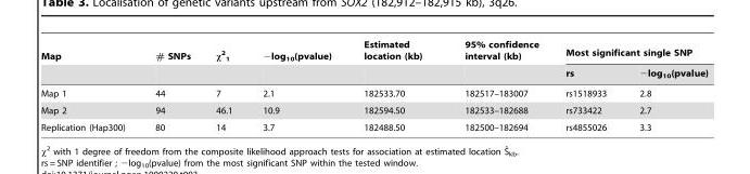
<table><thead><tr><td rowspan="2">Map</td><td rowspan="2"># SNPs</td><td rowspan="2">χ<sup>2</sup> <sub>1</sub></td><td rowspan="2">−log<sub>10</sub>(pvalue)</td><td rowspan="2">Estimated location (kb)</td><td rowspan="2">95% confidence interval (kb)</td><td colspan="2">Most significant single SNP</td></tr><tr><td>rs</td><td>−log<sub>10</sub>(pvalue)</td></tr></thead><tbody><tr><td>Map 1</td><td>44</td><td>7</td><td>2.1</td><td>182533.70</td><td>182517–183007</td><td>rs1518933</td><td>2.8</td></tr><tr><td>Map 2</td><td>94</td><td>46.1</td><td>10.9</td><td>182594.50</td><td>182533–182688</td><td>rs733422</td><td>2.7</td></tr><tr><td>Replication (Hap300)</td><td>80</td><td>14</td><td>3.7</td><td>182488.50</td><td>182500–182694</td><td>rs4855026</td><td>3.3</td></tr></tbody></table>